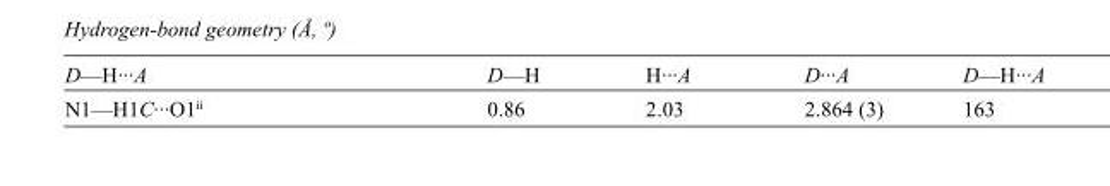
<table><tbody><tr><td>D—H···A</td><td>D—H</td><td>H···A</td><td>D···A</td><td>D—H···A</td></tr><tr><td>N1—H1C···O1<sup>ii</sup></td><td>0.86</td><td>2.03</td><td>2.864 (3)</td><td>163</td></tr></tbody></table>